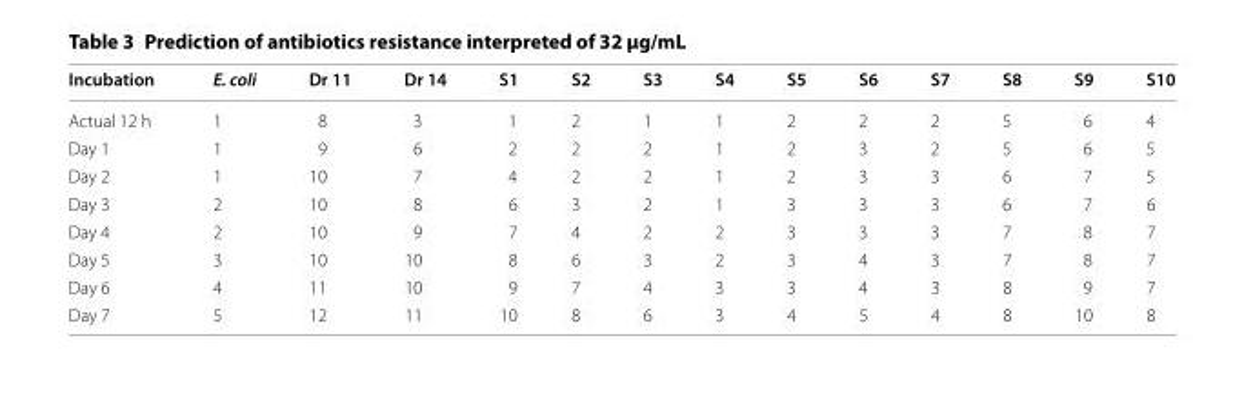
<table><thead><tr><td>Incubation</td><td>E. coli</td><td>Dr 11</td><td>Dr 14</td><td>S1</td><td>S2</td><td>S3</td><td>S4</td><td>S5</td><td>S6</td><td>S7</td><td>S8</td><td>S9</td><td>S10</td></tr></thead><tbody><tr><td>Actual 12 h</td><td>1</td><td>8</td><td>3</td><td>1</td><td>2</td><td>1</td><td>1</td><td>2</td><td>2</td><td>2</td><td>5</td><td>6</td><td>4</td></tr><tr><td>Day 1</td><td>1</td><td>9</td><td>6</td><td>2</td><td>2</td><td>2</td><td>1</td><td>2</td><td>3</td><td>2</td><td>5</td><td>6</td><td>5</td></tr><tr><td>Day 2</td><td>1</td><td>10</td><td>7</td><td>4</td><td>2</td><td>2</td><td>1</td><td>2</td><td>3</td><td>3</td><td>6</td><td>7</td><td>5</td></tr><tr><td>Day 3</td><td>2</td><td>10</td><td>8</td><td>6</td><td>3</td><td>2</td><td>1</td><td>3</td><td>3</td><td>3</td><td>6</td><td>7</td><td>6</td></tr><tr><td>Day 4</td><td>2</td><td>10</td><td>9</td><td>7</td><td>4</td><td>2</td><td>2</td><td>3</td><td>3</td><td>3</td><td>7</td><td>8</td><td>7</td></tr><tr><td>Day 5</td><td>3</td><td>10</td><td>10</td><td>8</td><td>6</td><td>3</td><td>2</td><td>3</td><td>4</td><td>3</td><td>7</td><td>8</td><td>7</td></tr><tr><td>Day 6</td><td>4</td><td>11</td><td>10</td><td>9</td><td>7</td><td>4</td><td>3</td><td>3</td><td>4</td><td>3</td><td>8</td><td>9</td><td>7</td></tr><tr><td>Day 7</td><td>5</td><td>12</td><td>11</td><td>10</td><td>8</td><td>6</td><td>3</td><td>4</td><td>5</td><td>4</td><td>8</td><td>10</td><td>8</td></tr></tbody></table>